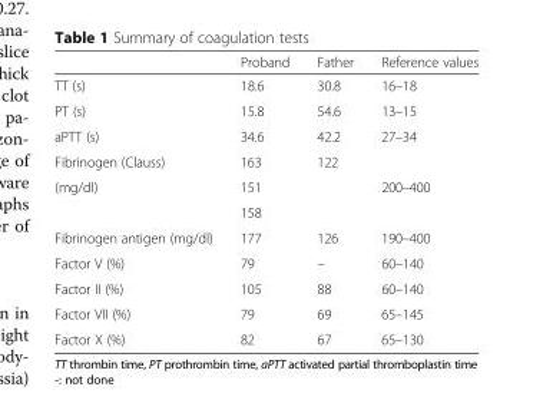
<table><thead><tr><td></td><td>Proband</td><td>Father</td><td>Reference values</td></tr></thead><tbody><tr><td>TT (s)</td><td>18.6</td><td>30.8</td><td>16–18</td></tr><tr><td>PT (s)</td><td>15.8</td><td>54.6</td><td>13–15</td></tr><tr><td>aPTT (s)</td><td>34.6</td><td>42.2</td><td>27–34</td></tr><tr><td>Fibrinogen (Clauss)</td><td>163</td><td>122</td><td></td></tr><tr><td rowspan="2">(mg/dl)</td><td>151</td><td></td><td>200–400</td></tr><tr><td>158</td><td></td><td></td></tr><tr><td>Fibrinogen antigen (mg/dl)</td><td>177</td><td>126</td><td>190–400</td></tr><tr><td>Factor V (%)</td><td>79</td><td>–</td><td>60–140</td></tr><tr><td>Factor II (%)</td><td>105</td><td>88</td><td>60–140</td></tr><tr><td>Factor VII (%)</td><td>79</td><td>69</td><td>65–145</td></tr><tr><td>Factor X (%)</td><td>82</td><td>67</td><td>65–130</td></tr></tbody></table>